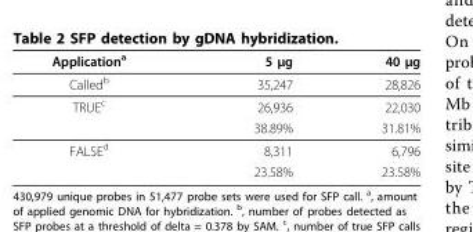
<table><thead><tr><td>Application<sup>a</sup></td><td>5 μg</td><td>40 μg</td></tr></thead><tbody><tr><td>Called<sup>b</sup></td><td>35,247</td><td>28,826</td></tr><tr><td rowspan="2">TRUE<sup>c</sup></td><td>26,936</td><td>22,030</td></tr><tr><td>38.89%</td><td>31.81%</td></tr><tr><td rowspan="2">FALSE<sup>d</sup></td><td>8,311</td><td>6,796</td></tr><tr><td>23.58%</td><td>23.58%</td></tr></tbody></table>